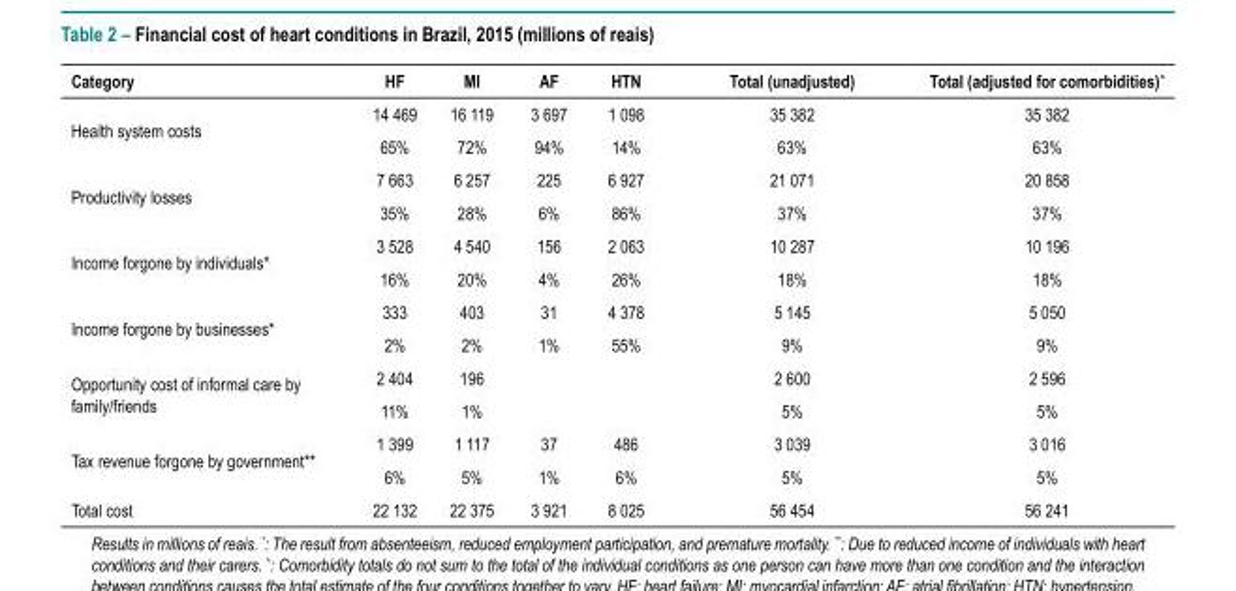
<table><thead><tr><td>Category</td><td>HF</td><td>MI</td><td>AF</td><td>HTN</td><td>Total (unadjusted)</td><td>Total (adjusted for comorbidities)<sup>^</sup></td></tr></thead><tbody><tr><td rowspan="2">Health system costs</td><td>14 469</td><td>16 119</td><td>3 697</td><td>1 098</td><td>35 382</td><td>35 382</td></tr><tr><td>65%</td><td>72%</td><td>94%</td><td>14%</td><td>63%</td><td>63%</td></tr><tr><td rowspan="2">Productivity losses</td><td>7 663</td><td>6 257</td><td>225</td><td>6 927</td><td>21 071</td><td>20 858</td></tr><tr><td>35%</td><td>28%</td><td>6%</td><td>86%</td><td>37%</td><td>37%</td></tr><tr><td rowspan="2">Income forgone by individuals*</td><td>3 528</td><td>4 540</td><td>156</td><td>2 063</td><td>10 287</td><td>10 196</td></tr><tr><td>16%</td><td>20%</td><td>4%</td><td>26%</td><td>18%</td><td>18%</td></tr><tr><td rowspan="2">Income forgone by businesses*</td><td>333</td><td>403</td><td>31</td><td>4 378</td><td>5 145</td><td>5 050</td></tr><tr><td>2%</td><td>2%</td><td>1%</td><td>55%</td><td>9%</td><td>9%</td></tr><tr><td rowspan="2">Opportunity cost of informal care by family/friends</td><td>2 404</td><td>196</td><td></td><td></td><td>2 600</td><td>2 596</td></tr><tr><td>11%</td><td>1%</td><td></td><td></td><td>5%</td><td>5%</td></tr><tr><td rowspan="2">Tax revenue forgone by government**</td><td>1 399</td><td>1 117</td><td>37</td><td>486</td><td>3 039</td><td>3 016</td></tr><tr><td>6%</td><td>5%</td><td>1%</td><td>6%</td><td>5%</td><td>5%</td></tr><tr><td>Total cost</td><td>22 132</td><td>22 375</td><td>3 921</td><td>8 025</td><td>56 454</td><td>56 241</td></tr></tbody></table>